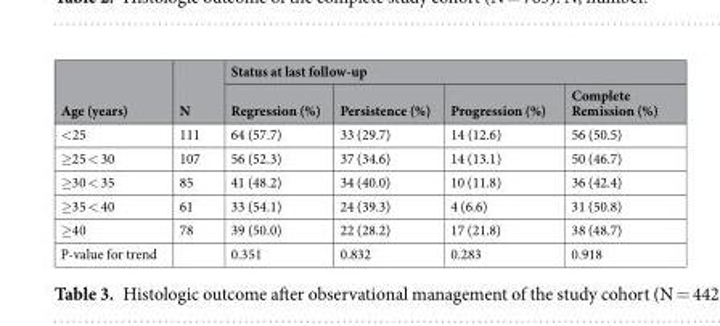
<table><thead><tr><td rowspan="2">Age (years)</td><td rowspan="2">N</td><td colspan="4">Status at last follow-up</td></tr><tr><td>Regression (%)</td><td>Persistence (%)</td><td>Progression (%)</td><td>Complete Remission (%)</td></tr></thead><tbody><tr><td>&lt;25</td><td>111</td><td>64 (57.7)</td><td>33 (29.7)</td><td>14 (12.6)</td><td>56 (50.5)</td></tr><tr><td>≥25 &lt; 30</td><td>107</td><td>56 (52.3)</td><td>37 (34.6)</td><td>14 (13.1)</td><td>50 (46.7)</td></tr><tr><td>≥30 &lt; 35</td><td>85</td><td>41 (48.2)</td><td>34 (40.0)</td><td>10 (11.8)</td><td>36 (42.4)</td></tr><tr><td>≥35 &lt; 40</td><td>61</td><td>33 (54.1)</td><td>24 (39.3)</td><td>4 (6.6)</td><td>31 (50.8)</td></tr><tr><td>≥40</td><td>78</td><td>39 (50.0)</td><td>22 (28.2)</td><td>17 (21.8)</td><td>38 (48.7)</td></tr><tr><td>P-value for trend</td><td></td><td>0.351</td><td>0.832</td><td>0.283</td><td>0.918</td></tr></tbody></table>